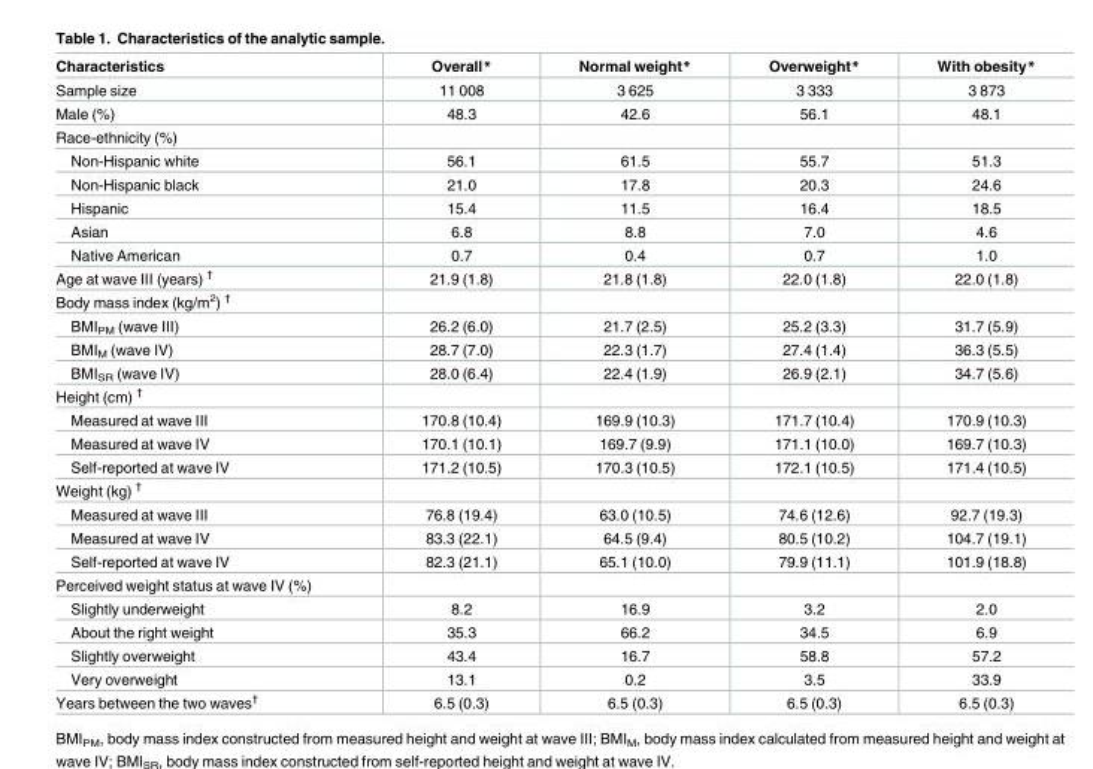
<table><thead><tr><td>Characteristics</td><td>Overall*</td><td>Normal weight*</td><td>Overweight*</td><td>With obesity*</td></tr></thead><tbody><tr><td>Sample size</td><td>11 008</td><td>3 625</td><td>3 333</td><td>3 873</td></tr><tr><td>Male (%)</td><td>48.3</td><td>42.6</td><td>56.1</td><td>48.1</td></tr><tr><td colspan="5">Race-ethnicity (%)</td></tr><tr><td>Non-Hispanic white</td><td>56.1</td><td>61.5</td><td>55.7</td><td>51.3</td></tr><tr><td>Non-Hispanic black</td><td>21.0</td><td>17.8</td><td>20.3</td><td>24.6</td></tr><tr><td>Hispanic</td><td>15.4</td><td>11.5</td><td>16.4</td><td>18.5</td></tr><tr><td>Asian</td><td>6.8</td><td>8.8</td><td>7.0</td><td>4.6</td></tr><tr><td>Native American</td><td>0.7</td><td>0.4</td><td>0.7</td><td>1.0</td></tr><tr><td>Age at wave III (years) <sup>†</sup></td><td>21.9 (1.8)</td><td>21.8 (1.8)</td><td>22.0 (1.8)</td><td>22.0 (1.8)</td></tr><tr><td colspan="5">Body mass index (kg/m<sup>2</sup>) <sup>†</sup></td></tr><tr><td>BMI<sub>PM</sub> (wave III)</td><td>26.2 (6.0)</td><td>21.7 (2.5)</td><td>25.2 (3.3)</td><td>31.7 (5.9)</td></tr><tr><td>BMI<sub>M</sub> (wave IV)</td><td>28.7 (7.0)</td><td>22.3 (1.7)</td><td>27.4 (1.4)</td><td>36.3 (5.5)</td></tr><tr><td>BMI<sub>SR</sub> (wave IV)</td><td>28.0 (6.4)</td><td>22.4 (1.9)</td><td>26.9 (2.1)</td><td>34.7 (5.6)</td></tr><tr><td colspan="5">Height (cm) <sup>†</sup></td></tr><tr><td>Measured at wave III</td><td>170.8 (10.4)</td><td>169.9 (10.3)</td><td>171.7 (10.4)</td><td>170.9 (10.3)</td></tr><tr><td>Measured at wave IV</td><td>170.1 (10.1)</td><td>169.7 (9.9)</td><td>171.1 (10.0)</td><td>169.7 (10.3)</td></tr><tr><td>Self-reported at wave IV</td><td>171.2 (10.5)</td><td>170.3 (10.5)</td><td>172.1 (10.5)</td><td>171.4 (10.5)</td></tr><tr><td colspan="5">Weight (kg) <sup>†</sup></td></tr><tr><td>Measured at wave III</td><td>76.8 (19.4)</td><td>63.0 (10.5)</td><td>74.6 (12.6)</td><td>92.7 (19.3)</td></tr><tr><td>Measured at wave IV</td><td>83.3 (22.1)</td><td>64.5 (9.4)</td><td>80.5 (10.2)</td><td>104.7 (19.1)</td></tr><tr><td>Self-reported at wave IV</td><td>82.3 (21.1)</td><td>65.1 (10.0)</td><td>79.9 (11.1)</td><td>101.9 (18.8)</td></tr><tr><td colspan="5">Perceived weight status at wave IV (%)</td></tr><tr><td>Slightly underweight</td><td>8.2</td><td>16.9</td><td>3.2</td><td>2.0</td></tr><tr><td>About the right weight</td><td>35.3</td><td>66.2</td><td>34.5</td><td>6.9</td></tr><tr><td>Slightly overweight</td><td>43.4</td><td>16.7</td><td>58.8</td><td>57.2</td></tr><tr><td>Very overweight</td><td>13.1</td><td>0.2</td><td>3.5</td><td>33.9</td></tr><tr><td>Years between the two waves<sup>†</sup></td><td>6.5 (0.3)</td><td>6.5 (0.3)</td><td>6.5 (0.3)</td><td>6.5 (0.3)</td></tr></tbody></table>